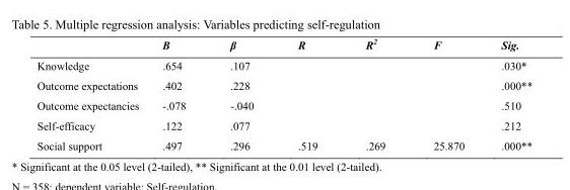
<table><thead><tr><td></td><td>B</td><td>β</td><td>R</td><td>R<sup>2</sup></td><td>F</td><td>Sig.</td></tr></thead><tbody><tr><td>Knowledge</td><td>.654</td><td>.107</td><td></td><td></td><td></td><td>.030*</td></tr><tr><td>Outcome expectations</td><td>.402</td><td>.228</td><td></td><td></td><td></td><td>.000**</td></tr><tr><td>Outcome expectancies</td><td>-.078</td><td>-.040</td><td></td><td></td><td></td><td>.510</td></tr><tr><td>Self-efficacy</td><td>.122</td><td>.077</td><td></td><td></td><td></td><td>.212</td></tr><tr><td>Social support</td><td>.497</td><td>.296</td><td>.519</td><td>.269</td><td>25.870</td><td>.000**</td></tr></tbody></table>